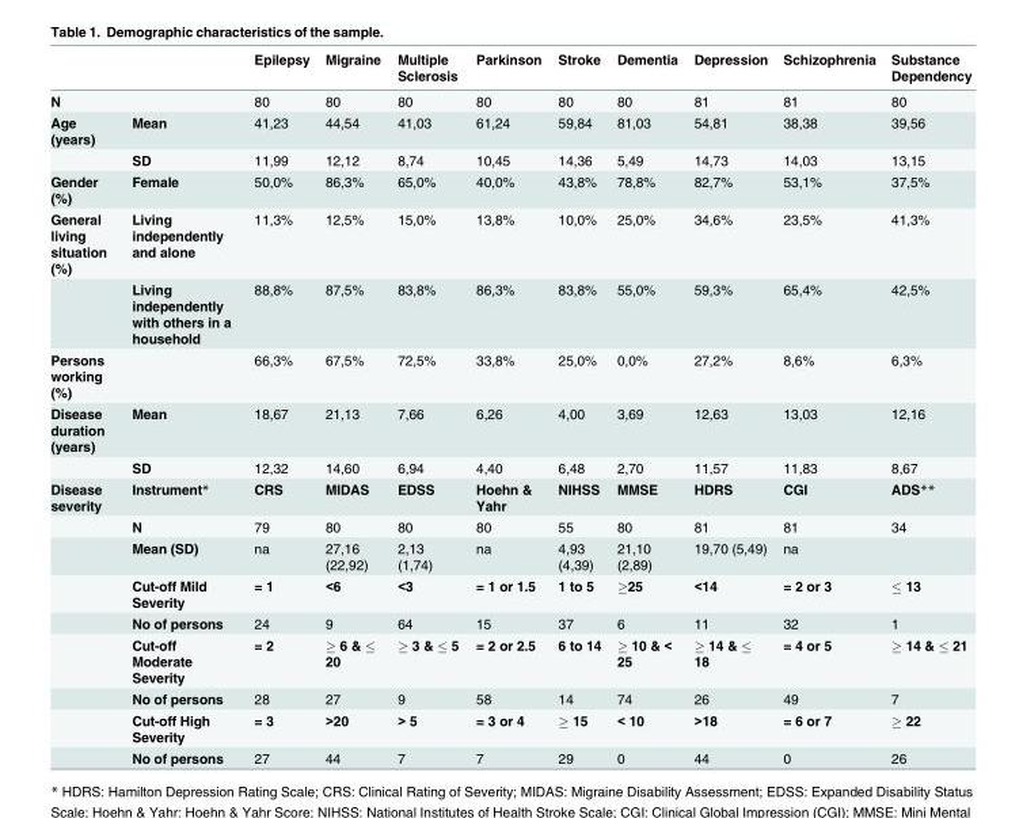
<table><thead><tr><td></td><td></td><td>Epilepsy</td><td>Migraine</td><td>Multiple Sclerosis</td><td>Parkinson</td><td>Stroke</td><td>Dementia</td><td>Depression</td><td>Schizophrenia</td><td>Substance Dependency</td></tr></thead><tbody><tr><td>N</td><td></td><td>80</td><td>80</td><td>80</td><td>80</td><td>80</td><td>80</td><td>81</td><td>81</td><td>80</td></tr><tr><td rowspan="2">Age (years)</td><td>Mean</td><td>41,23</td><td>44,54</td><td>41,03</td><td>61,24</td><td>59,84</td><td>81,03</td><td>54,81</td><td>38,38</td><td>39,56</td></tr><tr><td>SD</td><td>11,99</td><td>12,12</td><td>8,74</td><td>10,45</td><td>14,36</td><td>5,49</td><td>14,73</td><td>14,03</td><td>13,15</td></tr><tr><td>Gender (%)</td><td>Female</td><td>50,0%</td><td>86,3%</td><td>65,0%</td><td>40,0%</td><td>43,8%</td><td>78,8%</td><td>82,7%</td><td>53,1%</td><td>37,5%</td></tr><tr><td rowspan="2">General living situation (%)</td><td>Living independently and alone</td><td>11,3%</td><td>12,5%</td><td>15,0%</td><td>13,8%</td><td>10,0%</td><td>25,0%</td><td>34,6%</td><td>23,5%</td><td>41,3%</td></tr><tr><td>Living independently with others in a household</td><td>88,8%</td><td>87,5%</td><td>83,8%</td><td>86,3%</td><td>83,8%</td><td>55,0%</td><td>59,3%</td><td>65,4%</td><td>42,5%</td></tr><tr><td>Persons working (%)</td><td></td><td>66,3%</td><td>67,5%</td><td>72,5%</td><td>33,8%</td><td>25,0%</td><td>0,0%</td><td>27,2%</td><td>8,6%</td><td>6,3%</td></tr><tr><td rowspan="2">Disease duration (years)</td><td>Mean</td><td>18,67</td><td>21,13</td><td>7,66</td><td>6,26</td><td>4,00</td><td>3,69</td><td>12,63</td><td>13,03</td><td>12,16</td></tr><tr><td>SD</td><td>12,32</td><td>14,60</td><td>6,94</td><td>4,40</td><td>6,48</td><td>2,70</td><td>11,57</td><td>11,83</td><td>8,67</td></tr><tr><td rowspan="9">Disease severity</td><td>Instrument*</td><td>CRS</td><td>MIDAS</td><td>EDSS</td><td>Hoehn &amp; Yahr</td><td>NIHSS</td><td>MMSE</td><td>HDRS</td><td>CGI</td><td>ADS**</td></tr><tr><td>N</td><td>79</td><td>80</td><td>80</td><td>80</td><td>55</td><td>80</td><td>81</td><td>81</td><td>34</td></tr><tr><td>Mean (SD)</td><td>na</td><td>27,16 (22,92)</td><td>2,13 (1,74)</td><td>na</td><td>4,93 (4,39)</td><td>21,10 (2,89)</td><td>19,70 (5,49)</td><td>na</td><td></td></tr><tr><td>Cut-off Mild Severity</td><td>= 1</td><td>&lt;6</td><td>&lt;3</td><td>= 1 or 1.5</td><td>1 to 5</td><td>≥25</td><td>&lt;14</td><td>= 2 or 3</td><td>≤ 13</td></tr><tr><td>No of persons</td><td>24</td><td>9</td><td>64</td><td>15</td><td>37</td><td>6</td><td>11</td><td>32</td><td>1</td></tr><tr><td>Cut-off Moderate Severity</td><td>= 2</td><td>≥ 6 &amp; ≤ 20</td><td>≥ 3 &amp; ≤ 5</td><td>= 2 or 2.5</td><td>6 to 14</td><td>≥ 10 &amp; &lt; 25</td><td>≥ 14 &amp; ≤ 18</td><td>= 4 or 5</td><td>≥ 14 &amp; ≤ 21</td></tr><tr><td>No of persons</td><td>28</td><td>27</td><td>9</td><td>58</td><td>14</td><td>74</td><td>26</td><td>49</td><td>7</td></tr><tr><td>Cut-off High Severity</td><td>= 3</td><td>&gt;20</td><td>&gt; 5</td><td>= 3 or 4</td><td>≥ 15</td><td>&lt; 10</td><td>&gt;18</td><td>= 6 or 7</td><td>≥ 22</td></tr><tr><td>No of persons</td><td>27</td><td>44</td><td>7</td><td>7</td><td>29</td><td>0</td><td>44</td><td>0</td><td>26</td></tr></tbody></table>